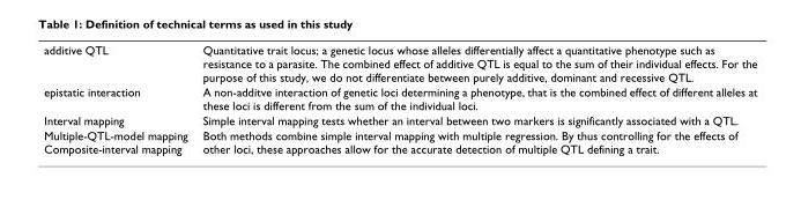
<table><tbody><tr><td>additive QTL</td><td>Quantitative trait locus; a genetic locus whose alleles differentially affect a quantitative phenotype such as resistance to a parasite. The combined effect of additive QTL is equal to the sum of their individual effects. For the purpose of this study, we do not differentiate between purely additive, dominant and recessive QTL.</td></tr><tr><td>epistatic interaction</td><td>A non-additve interaction of genetic loci determining a phenotype, that is the combined effect of different alleles at these loci is different from the sum of the individual loci.</td></tr><tr><td>Interval mapping</td><td>Simple interval mapping tests whether an interval between two markers is significantly associated with a QTL.</td></tr><tr><td>Multiple-QTL-model mapping Composite-interval mapping</td><td>Both methods combine simple interval mapping with multiple regression. By thus controlling for the effects of other loci, these approaches allow for the accurate detection of multiple QTL defining a trait.</td></tr></tbody></table>